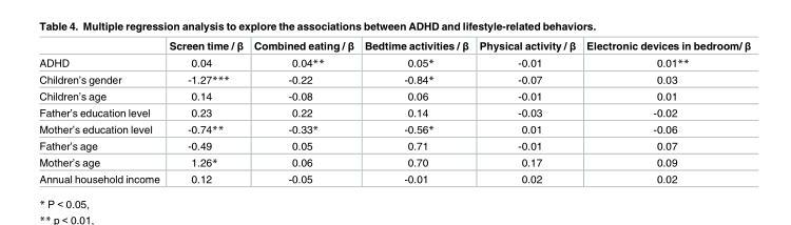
<table><thead><tr><td></td><td>Screen time / β</td><td>Combined eating / β</td><td>Bedtime activities / β</td><td>Physical activity / β</td><td>Electronic devices in bedroom/ β</td></tr></thead><tbody><tr><td>ADHD</td><td>0.04</td><td>0.04**</td><td>0.05*</td><td>-0.01</td><td>0.01**</td></tr><tr><td>Children’s gender</td><td>-1.27***</td><td>-0.22</td><td>-0.84*</td><td>-0.07</td><td>0.03</td></tr><tr><td>Children’s age</td><td>0.14</td><td>-0.08</td><td>0.06</td><td>-0.01</td><td>0.01</td></tr><tr><td>Father’s education level</td><td>0.23</td><td>0.22</td><td>0.14</td><td>-0.03</td><td>-0.02</td></tr><tr><td>Mother’s education level</td><td>-0.74**</td><td>-0.33*</td><td>-0.56*</td><td>0.01</td><td>-0.06</td></tr><tr><td>Father’s age</td><td>-0.49</td><td>0.05</td><td>0.71</td><td>-0.01</td><td>0.07</td></tr><tr><td>Mother’s age</td><td>1.26*</td><td>0.06</td><td>0.70</td><td>0.17</td><td>0.09</td></tr><tr><td>Annual household income</td><td>0.12</td><td>-0.05</td><td>-0.01</td><td>0.02</td><td>0.02</td></tr></tbody></table>